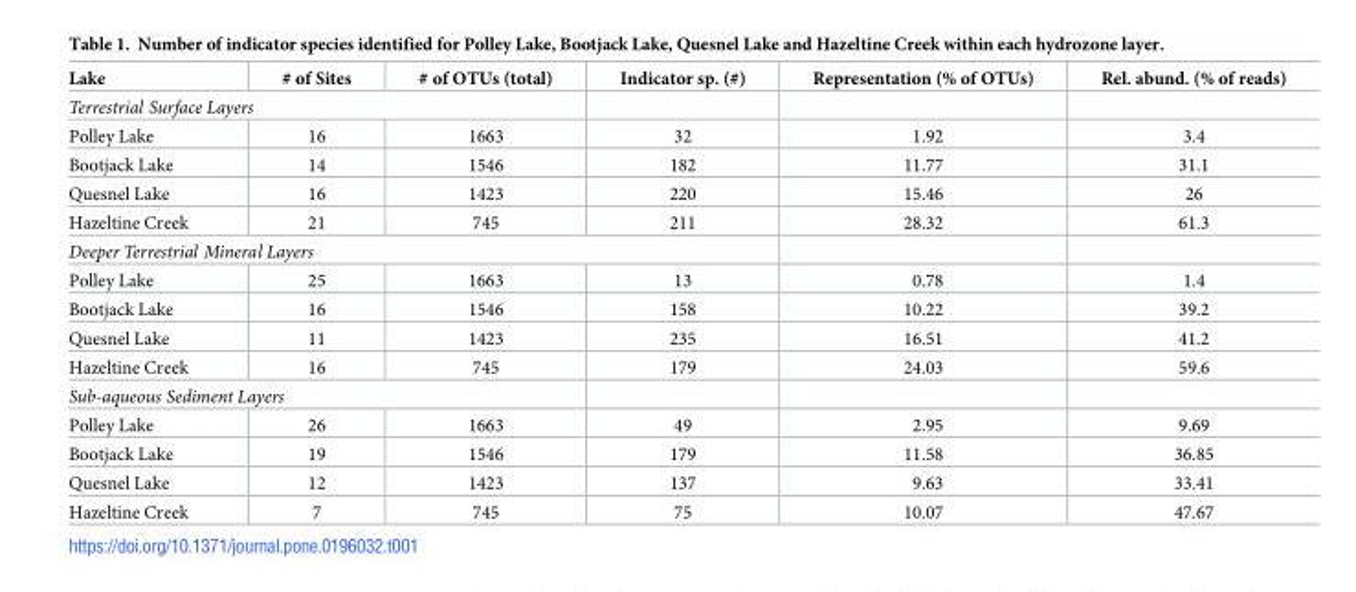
<table><thead><tr><td>Lake</td><td># of Sites</td><td># of OTUs (total)</td><td>Indicator sp. (#)</td><td>Representation (% of OTUs)</td><td>Rel. abund. (% of reads)</td></tr></thead><tbody><tr><td colspan="6">Terrestrial Surface Layers</td></tr><tr><td>Polley Lake</td><td>16</td><td>1663</td><td>32</td><td>1.92</td><td>3.4</td></tr><tr><td>Bootjack Lake</td><td>14</td><td>1546</td><td>182</td><td>11.77</td><td>31.1</td></tr><tr><td>Quesnel Lake</td><td>16</td><td>1423</td><td>220</td><td>15.46</td><td>26</td></tr><tr><td>Hazeltine Creek</td><td>21</td><td>745</td><td>211</td><td>28.32</td><td>61.3</td></tr><tr><td colspan="6">Deeper Terrestrial Mineral Layers</td></tr><tr><td>Polley Lake</td><td>25</td><td>1663</td><td>13</td><td>0.78</td><td>1.4</td></tr><tr><td>Bootjack Lake</td><td>16</td><td>1546</td><td>158</td><td>10.22</td><td>39.2</td></tr><tr><td>Quesnel Lake</td><td>11</td><td>1423</td><td>235</td><td>16.51</td><td>41.2</td></tr><tr><td>Hazeltine Creek</td><td>16</td><td>745</td><td>179</td><td>24.03</td><td>59.6</td></tr><tr><td colspan="6">Sub-aqueous Sediment Layers</td></tr><tr><td>Polley Lake</td><td>26</td><td>1663</td><td>49</td><td>2.95</td><td>9.69</td></tr><tr><td>Bootjack Lake</td><td>19</td><td>1546</td><td>179</td><td>11.58</td><td>36.85</td></tr><tr><td>Quesnel Lake</td><td>12</td><td>1423</td><td>137</td><td>9.63</td><td>33.41</td></tr><tr><td>Hazeltine Creek</td><td>7</td><td>745</td><td>75</td><td>10.07</td><td>47.67</td></tr></tbody></table>